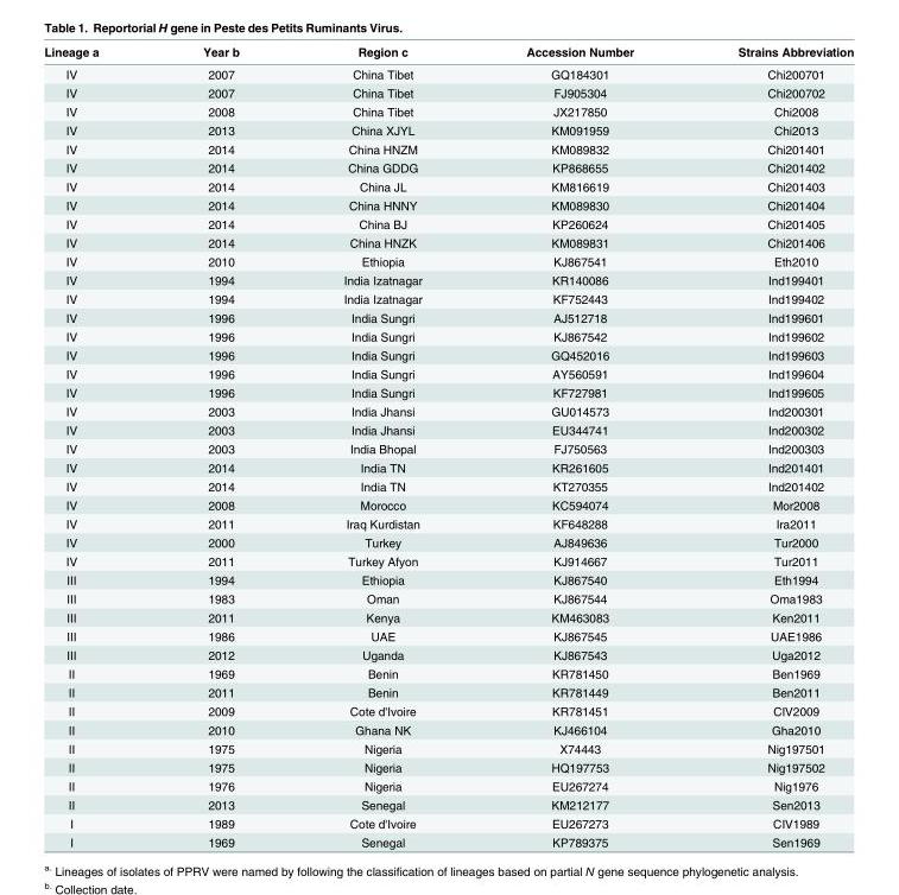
<table><thead><tr><td>Lineage a</td><td>Year b</td><td>Region c</td><td>Accession Number</td><td>Strains Abbreviation</td></tr></thead><tbody><tr><td>IV</td><td>2007</td><td>China Tibet</td><td>GQ184301</td><td>Chi200701</td></tr><tr><td>IV</td><td>2007</td><td>China Tibet</td><td>FJ905304</td><td>Chi200702</td></tr><tr><td>IV</td><td>2008</td><td>China Tibet</td><td>JX217850</td><td>Chi2008</td></tr><tr><td>IV</td><td>2013</td><td>China XJYL</td><td>KM091959</td><td>Chi2013</td></tr><tr><td>IV</td><td>2014</td><td>China HNZM</td><td>KM089832</td><td>Chi201401</td></tr><tr><td>IV</td><td>2014</td><td>China GDDG</td><td>KP868655</td><td>Chi201402</td></tr><tr><td>IV</td><td>2014</td><td>China JL</td><td>KM816619</td><td>Chi201403</td></tr><tr><td>IV</td><td>2014</td><td>China HNNY</td><td>KM089830</td><td>Chi201404</td></tr><tr><td>IV</td><td>2014</td><td>China BJ</td><td>KP260624</td><td>Chi201405</td></tr><tr><td>IV</td><td>2014</td><td>China HNZK</td><td>KM089831</td><td>Chi201406</td></tr><tr><td>IV</td><td>2010</td><td>Ethiopia</td><td>KJ867541</td><td>Eth2010</td></tr><tr><td>IV</td><td>1994</td><td>India Izatnagar</td><td>KR140086</td><td>Ind199401</td></tr><tr><td>IV</td><td>1994</td><td>India Izatnagar</td><td>KF752443</td><td>Ind199402</td></tr><tr><td>IV</td><td>1996</td><td>India Sungri</td><td>AJ512718</td><td>Ind199601</td></tr><tr><td>IV</td><td>1996</td><td>India Sungri</td><td>KJ867542</td><td>Ind199602</td></tr><tr><td>IV</td><td>1996</td><td>India Sungri</td><td>GQ452016</td><td>Ind199603</td></tr><tr><td>IV</td><td>1996</td><td>India Sungri</td><td>AY560591</td><td>Ind199604</td></tr><tr><td>IV</td><td>1996</td><td>India Sungri</td><td>KF727981</td><td>Ind199605</td></tr><tr><td>IV</td><td>2003</td><td>India Jhansi</td><td>GU014573</td><td>Ind200301</td></tr><tr><td>IV</td><td>2003</td><td>India Jhansi</td><td>EU344741</td><td>Ind200302</td></tr><tr><td>IV</td><td>2003</td><td>India Bhopal</td><td>FJ750563</td><td>Ind200303</td></tr><tr><td>IV</td><td>2014</td><td>India TN</td><td>KR261605</td><td>Ind201401</td></tr><tr><td>IV</td><td>2014</td><td>India TN</td><td>KT270355</td><td>Ind201402</td></tr><tr><td>IV</td><td>2008</td><td>Morocco</td><td>KC594074</td><td>Mor2008</td></tr><tr><td>IV</td><td>2011</td><td>Iraq Kurdistan</td><td>KF648288</td><td>Ira2011</td></tr><tr><td>IV</td><td>2000</td><td>Turkey</td><td>AJ849636</td><td>Tur2000</td></tr><tr><td>IV</td><td>2011</td><td>Turkey Afyon</td><td>KJ914667</td><td>Tur2011</td></tr><tr><td>III</td><td>1994</td><td>Ethiopia</td><td>KJ867540</td><td>Eth1994</td></tr><tr><td>III</td><td>1983</td><td>Oman</td><td>KJ867544</td><td>Oma1983</td></tr><tr><td>III</td><td>2011</td><td>Kenya</td><td>KM463083</td><td>Ken2011</td></tr><tr><td>III</td><td>1986</td><td>UAE</td><td>KJ867545</td><td>UAE1986</td></tr><tr><td>III</td><td>2012</td><td>Uganda</td><td>KJ867543</td><td>Uga2012</td></tr><tr><td>II</td><td>1969</td><td>Benin</td><td>KR781450</td><td>Ben1969</td></tr><tr><td>II</td><td>2011</td><td>Benin</td><td>KR781449</td><td>Ben2011</td></tr><tr><td>II</td><td>2009</td><td>Cote d&#x27;Ivoire</td><td>KR781451</td><td>CIV2009</td></tr><tr><td>II</td><td>2010</td><td>Ghana NK</td><td>KJ466104</td><td>Gha2010</td></tr><tr><td>II</td><td>1975</td><td>Nigeria</td><td>X74443</td><td>Nig197501</td></tr><tr><td>II</td><td>1975</td><td>Nigeria</td><td>HQ197753</td><td>Nig197502</td></tr><tr><td>II</td><td>1976</td><td>Nigeria</td><td>EU267274</td><td>Nig1976</td></tr><tr><td>II</td><td>2013</td><td>Senegal</td><td>KM212177</td><td>Sen2013</td></tr><tr><td>I</td><td>1989</td><td>Cote d&#x27;Ivoire</td><td>EU267273</td><td>CIV1989</td></tr><tr><td>I</td><td>1969</td><td>Senegal</td><td>KP789375</td><td>Sen1969</td></tr></tbody></table>